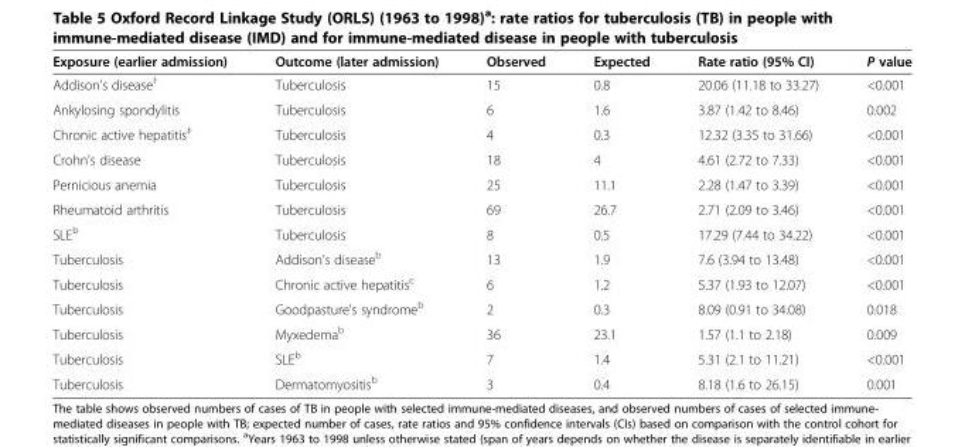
<table><thead><tr><td>Exposure (earlier admission)</td><td>Outcome (later admission)</td><td>Observed</td><td>Expected</td><td>Rate ratio (95% CI)</td><td>P value</td></tr></thead><tbody><tr><td>Addison&#x27;s disease<sup>†</sup></td><td>Tuberculosis</td><td>15</td><td>0.8</td><td>20.06 (11.18 to 33.27)</td><td>&lt;0.001</td></tr><tr><td>Ankylosing spondylitis</td><td>Tuberculosis</td><td>6</td><td>1.6</td><td>3.87 (1.42 to 8.46)</td><td>0.002</td></tr><tr><td>Chronic active hepatitis<sup>‡</sup></td><td>Tuberculosis</td><td>4</td><td>0.3</td><td>12.32 (3.35 to 31.66)</td><td>&lt;0.001</td></tr><tr><td>Crohn&#x27;s disease</td><td>Tuberculosis</td><td>18</td><td>4</td><td>4.61 (2.72 to 7.33)</td><td>&lt;0.001</td></tr><tr><td>Pernicious anemia</td><td>Tuberculosis</td><td>25</td><td>11.1</td><td>2.28 (1.47 to 3.39)</td><td>&lt;0.001</td></tr><tr><td>Rheumatoid arthritis</td><td>Tuberculosis</td><td>69</td><td>26.7</td><td>2.71 (2.09 to 3.46)</td><td>&lt;0.001</td></tr><tr><td>SLE<sup>b</sup></td><td>Tuberculosis</td><td>8</td><td>0.5</td><td>17.29 (7.44 to 34.22)</td><td>&lt;0.001</td></tr><tr><td>Tuberculosis</td><td>Addison&#x27;s disease<sup>b</sup></td><td>13</td><td>1.9</td><td>7.6 (3.94 to 13.48)</td><td>&lt;0.001</td></tr><tr><td>Tuberculosis</td><td>Chronic active hepatitis<sup>c</sup></td><td>6</td><td>1.2</td><td>5.37 (1.93 to 12.07)</td><td>&lt;0.001</td></tr><tr><td>Tuberculosis</td><td>Goodpasture&#x27;s syndrome<sup>b</sup></td><td>2</td><td>0.3</td><td>8.09 (0.91 to 34.08)</td><td>0.018</td></tr><tr><td>Tuberculosis</td><td>Myxedema<sup>b</sup></td><td>36</td><td>23.1</td><td>1.57 (1.1 to 2.18)</td><td>0.009</td></tr><tr><td>Tuberculosis</td><td>SLE<sup>b</sup></td><td>7</td><td>1.4</td><td>5.31 (2.1 to 11.21)</td><td>&lt;0.001</td></tr><tr><td>Tuberculosis</td><td>Dermatomyositis<sup>b</sup></td><td>3</td><td>0.4</td><td>8.18 (1.6 to 26.15)</td><td>0.001</td></tr></tbody></table>